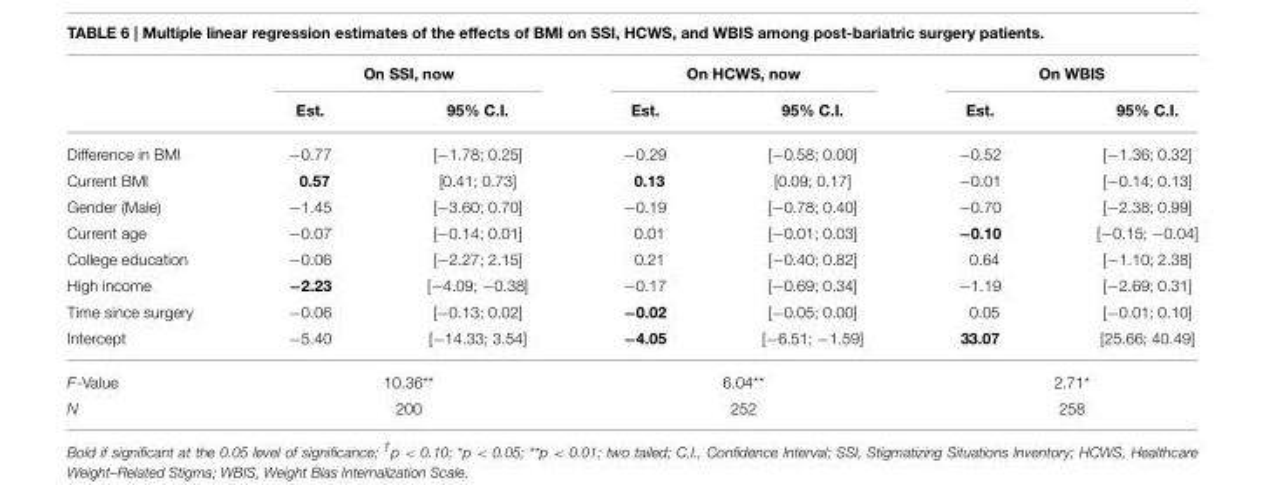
<table><thead><tr><td rowspan="2"></td><td colspan="2">On SSI, now</td><td colspan="2">On HCWS, now</td><td colspan="2">On WBIS</td></tr><tr><td>Est.</td><td>95% C.I.</td><td>Est.</td><td>95% C.I.</td><td>Est.</td><td>95% C.I.</td></tr></thead><tbody><tr><td>Difference in BMI</td><td>−0.77</td><td>[−1.78; 0.25]</td><td>−0.29</td><td>[−0.58; 0.00]</td><td>−0.52</td><td>[−1.36; 0.32]</td></tr><tr><td>Current BMI</td><td>0.57</td><td>[0.41; 0.73]</td><td>0.13</td><td>[0.09; 0.17]</td><td>−0.01</td><td>[−0.14; 0.13]</td></tr><tr><td>Gender (Male)</td><td>−1.45</td><td>[−3.60; 0.70]</td><td>−0.19</td><td>[−0.78; 0.40]</td><td>−0.70</td><td>[−2.38; 0.99]</td></tr><tr><td>Current age</td><td>−0.07</td><td>[−0.14; 0.01]</td><td>0.01</td><td>[−0.01; 0.03]</td><td>−0.10</td><td>[−0.15; −0.04]</td></tr><tr><td>College education</td><td>−0.06</td><td>[−2.27; 2.15]</td><td>0.21</td><td>[−0.40; 0.82]</td><td>0.64</td><td>[−1.10; 2.38]</td></tr><tr><td>High income</td><td>−2.23</td><td>[−4.09; −0.38]</td><td>−0.17</td><td>[−0.69; 0.34]</td><td>−1.19</td><td>[−2.69; 0.31]</td></tr><tr><td>Time since surgery</td><td>−0.06</td><td>[−0.13; 0.02]</td><td>−0.02</td><td>[−0.05; 0.00]</td><td>0.05</td><td>[−0.01; 0.10]</td></tr><tr><td>Intercept</td><td>−5.40</td><td>[−14.33; 3.54]</td><td>−4.05</td><td>[−6.51; −1.59]</td><td>33.07</td><td>[25.66; 40.49]</td></tr><tr><td>F-Value</td><td colspan="2">10.36**</td><td colspan="2">6.04**</td><td colspan="2">2.71*</td></tr><tr><td>N</td><td colspan="2">200</td><td colspan="2">252</td><td colspan="2">258</td></tr></tbody></table>